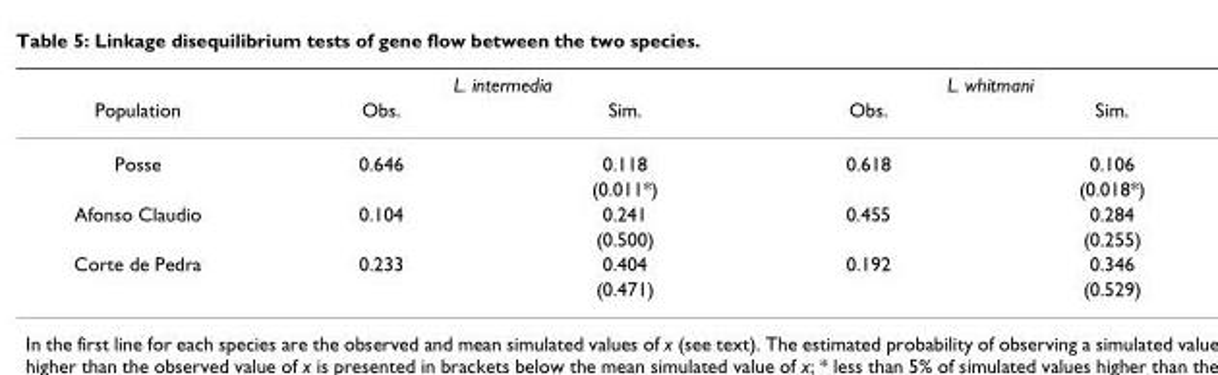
<table><thead><tr><td rowspan="2">Population</td><td colspan="2">L. intermedia</td><td colspan="2">L. whitmani</td></tr><tr><td>Obs.</td><td>Sim.</td><td>Obs.</td><td>Sim.</td></tr></thead><tbody><tr><td rowspan="2">Posse</td><td>0.646</td><td>0.118</td><td>0.618</td><td>0.106</td></tr><tr><td></td><td>(0.011*)</td><td></td><td>(0.018*)</td></tr><tr><td rowspan="2">Afonso Claudio</td><td>0.104</td><td>0.241</td><td>0.455</td><td>0.284</td></tr><tr><td></td><td>(0.500)</td><td></td><td>(0.255)</td></tr><tr><td rowspan="2">Corte de Pedra</td><td>0.233</td><td>0.404</td><td>0.192</td><td>0.346</td></tr><tr><td></td><td>(0.471)</td><td></td><td>(0.529)</td></tr></tbody></table>